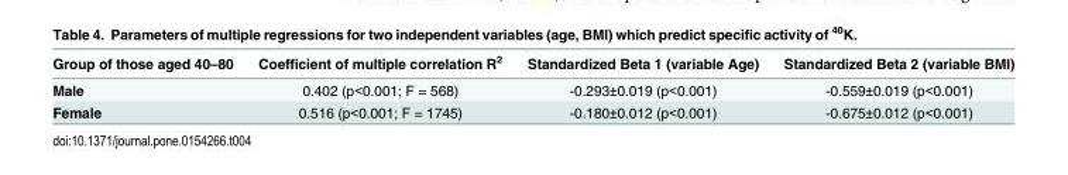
<table><thead><tr><td>Group of those aged 40–80</td><td>Coefficient of multiple correlation R<sup>2</sup></td><td>Standardized Beta 1 (variable Age)</td><td>Standardized Beta 2 (variable BMI)</td></tr></thead><tbody><tr><td>Male</td><td>0.402 (p&lt;0.001; F = 568)</td><td>-0.293±0.019 (p&lt;0.001)</td><td>-0.559±0.019 (p&lt;0.001)</td></tr><tr><td>Female</td><td>0.516 (p&lt;0.001; F = 1745)</td><td>-0.180±0.012 (p&lt;0.001)</td><td>-0.675±0.012 (p&lt;0.001)</td></tr></tbody></table>